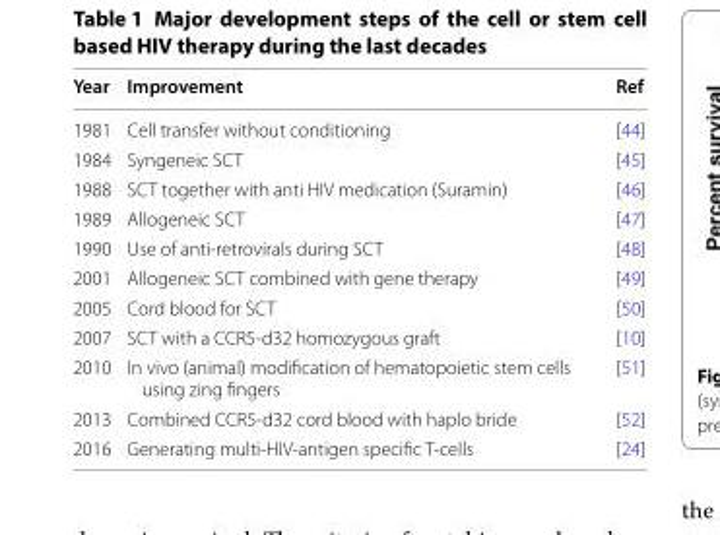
<table><thead><tr><td>Year</td><td>Improvement</td><td>Ref</td></tr></thead><tbody><tr><td>1981</td><td>Cell transfer without conditioning</td><td>[44]</td></tr><tr><td>1984</td><td>Syngeneic SCT</td><td>[45]</td></tr><tr><td>1988</td><td>SCT together with anti HIV medication (Suramin)</td><td>[46]</td></tr><tr><td>1989</td><td>Allogeneic SCT</td><td>[47]</td></tr><tr><td>1990</td><td>Use of anti-retrovirals during SCT</td><td>[48]</td></tr><tr><td>2001</td><td>Allogeneic SCT combined with gene therapy</td><td>[49]</td></tr><tr><td>2005</td><td>Cord blood for SCT</td><td>[50]</td></tr><tr><td>2007</td><td>SCT with a CCR5-d32 homozygous graft</td><td>[10]</td></tr><tr><td>2010</td><td>In vivo (animal) modification of hematopoietic stem cells using zing fingers</td><td>[51]</td></tr><tr><td>2013</td><td>Combined CCR5-d32 cord blood with haplo bride</td><td>[52]</td></tr><tr><td>2016</td><td>Generating multi-HIV-antigen specific T-cells</td><td>[24]</td></tr></tbody></table>